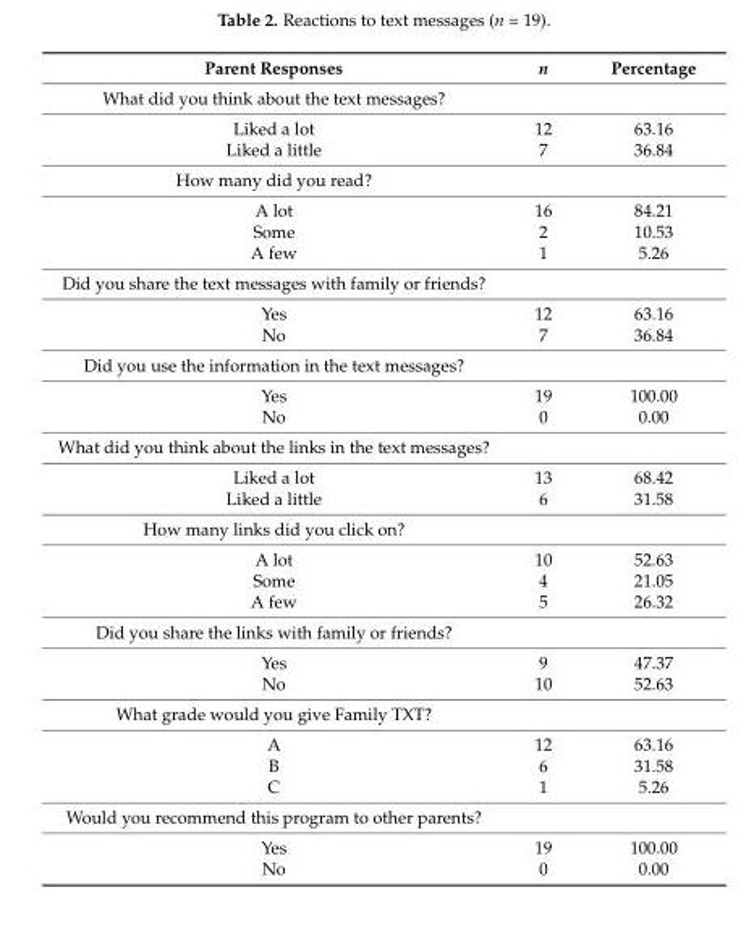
<table><thead><tr><td>Parent Responses</td><td>n</td><td>Percentage</td></tr></thead><tbody><tr><td colspan="3">What did you think about the text messages?</td></tr><tr><td>Liked a lot</td><td>12</td><td>63.16</td></tr><tr><td>Liked a little</td><td>7</td><td>36.84</td></tr><tr><td colspan="3">How many did you read?</td></tr><tr><td>A lot</td><td>16</td><td>84.21</td></tr><tr><td>Some</td><td>2</td><td>10.53</td></tr><tr><td>A few</td><td>1</td><td>5.26</td></tr><tr><td colspan="3">Did you share the text messages with family or friends?</td></tr><tr><td>Yes</td><td>12</td><td>63.16</td></tr><tr><td>No</td><td>7</td><td>36.84</td></tr><tr><td colspan="3">Did you use the information in the text messages?</td></tr><tr><td>Yes</td><td>19</td><td>100.00</td></tr><tr><td>No</td><td>0</td><td>0.00</td></tr><tr><td colspan="3">What did you think about the links in the text messages?</td></tr><tr><td>Liked a lot</td><td>13</td><td>68.42</td></tr><tr><td>Liked a little</td><td>6</td><td>31.58</td></tr><tr><td colspan="3">How many links did you click on?</td></tr><tr><td>A lot</td><td>10</td><td>52.63</td></tr><tr><td>Some</td><td>4</td><td>21.05</td></tr><tr><td>A few</td><td>5</td><td>26.32</td></tr><tr><td colspan="3">Did you share the links with family or friends?</td></tr><tr><td>Yes</td><td>9</td><td>47.37</td></tr><tr><td>No</td><td>10</td><td>52.63</td></tr><tr><td colspan="3">What grade would you give Family TXT?</td></tr><tr><td>A</td><td>12</td><td>63.16</td></tr><tr><td>B</td><td>6</td><td>31.58</td></tr><tr><td>C</td><td>1</td><td>5.26</td></tr><tr><td colspan="3">Would you recommend this program to other parents?</td></tr><tr><td>Yes</td><td>19</td><td>100.00</td></tr><tr><td>No</td><td>0</td><td>0.00</td></tr></tbody></table>